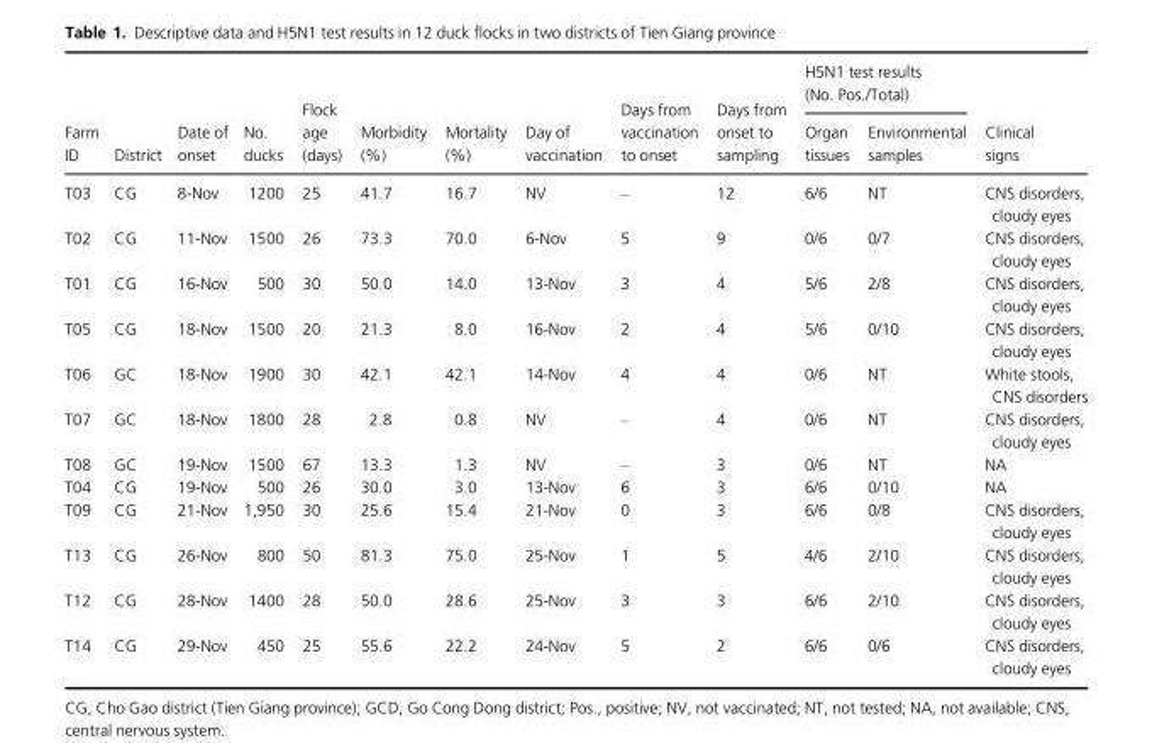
<table><thead><tr><td rowspan="2">Farm ID</td><td rowspan="2">District</td><td rowspan="2">Date of onset</td><td rowspan="2">No. ducks</td><td rowspan="2">Flock age (days)</td><td rowspan="2">Morbidity (%)</td><td rowspan="2">Mortality (%)</td><td rowspan="2">Day of vaccination</td><td rowspan="2">Days from vaccination to onset</td><td rowspan="2">Days from onset to sampling</td><td colspan="2">H5N1 test results (No. Pos./Total)</td><td rowspan="2">Clinical signs</td></tr><tr><td>Organ tissues</td><td>Environmental samples</td></tr></thead><tbody><tr><td>T03</td><td>CG</td><td>8-Nov</td><td>1200</td><td>25</td><td>41.7</td><td>16.7</td><td>NV</td><td>–</td><td>12</td><td>6/6</td><td>NT</td><td>CNS disorders, cloudy eyes</td></tr><tr><td>T02</td><td>CG</td><td>11-Nov</td><td>1500</td><td>26</td><td>73.3</td><td>70.0</td><td>6-Nov</td><td>5</td><td>9</td><td>0/6</td><td>0/7</td><td>CNS disorders, cloudy eyes</td></tr><tr><td>T01</td><td>CG</td><td>16-Nov</td><td>500</td><td>30</td><td>50.0</td><td>14.0</td><td>13-Nov</td><td>3</td><td>4</td><td>5/6</td><td>2/8</td><td>CNS disorders, cloudy eyes</td></tr><tr><td>T05</td><td>CG</td><td>18-Nov</td><td>1500</td><td>20</td><td>21.3</td><td>8.0</td><td>16-Nov</td><td>2</td><td>4</td><td>5/6</td><td>0/10</td><td>CNS disorders, cloudy eyes</td></tr><tr><td>T06</td><td>GC</td><td>18-Nov</td><td>1900</td><td>30</td><td>42.1</td><td>42.1</td><td>14-Nov</td><td>4</td><td>4</td><td>0/6</td><td>NT</td><td>White stools, CNS disorders</td></tr><tr><td>T07</td><td>GC</td><td>18-Nov</td><td>1800</td><td>28</td><td>2.8</td><td>0.8</td><td>NV</td><td>–</td><td>4</td><td>0/6</td><td>NT</td><td>CNS disorders, cloudy eyes</td></tr><tr><td>T08</td><td>GC</td><td>19-Nov</td><td>1500</td><td>67</td><td>13.3</td><td>1.3</td><td>NV</td><td>–</td><td>3</td><td>0/6</td><td>NT</td><td>NA</td></tr><tr><td>T04</td><td>CG</td><td>19-Nov</td><td>500</td><td>26</td><td>30.0</td><td>3.0</td><td>13-Nov</td><td>6</td><td>3</td><td>6/6</td><td>0/10</td><td>NA</td></tr><tr><td>T09</td><td>CG</td><td>21-Nov</td><td>1,950</td><td>30</td><td>25.6</td><td>15.4</td><td>21-Nov</td><td>0</td><td>3</td><td>6/6</td><td>0/8</td><td>CNS disorders, cloudy eyes</td></tr><tr><td>T13</td><td>CG</td><td>26-Nov</td><td>800</td><td>50</td><td>81.3</td><td>75.0</td><td>25-Nov</td><td>1</td><td>5</td><td>4/6</td><td>2/10</td><td>CNS disorders, cloudy eyes</td></tr><tr><td>T12</td><td>CG</td><td>28-Nov</td><td>1400</td><td>28</td><td>50.0</td><td>28.6</td><td>25-Nov</td><td>3</td><td>3</td><td>6/6</td><td>2/10</td><td>CNS disorders, cloudy eyes</td></tr><tr><td>T14</td><td>CG</td><td>29-Nov</td><td>450</td><td>25</td><td>55.6</td><td>22.2</td><td>24-Nov</td><td>5</td><td>2</td><td>6/6</td><td>0/6</td><td>CNS disorders, cloudy eyes</td></tr></tbody></table>